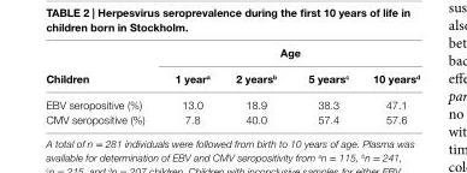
<table><thead><tr><td rowspan="2">children</td><td colspan="4">age</td></tr><tr><td>1 year<sup>a</sup></td><td>2 years<sup>b</sup></td><td>5 years<sup>c</sup></td><td>10 years<sup>d</sup></td></tr></thead><tbody><tr><td>EBV seropositive (%)</td><td>13.0</td><td>18.9</td><td>38.3</td><td>47.1</td></tr><tr><td>CMV seropositive (%)</td><td>7.8</td><td>40.0</td><td>57.4</td><td>57.6</td></tr></tbody></table>